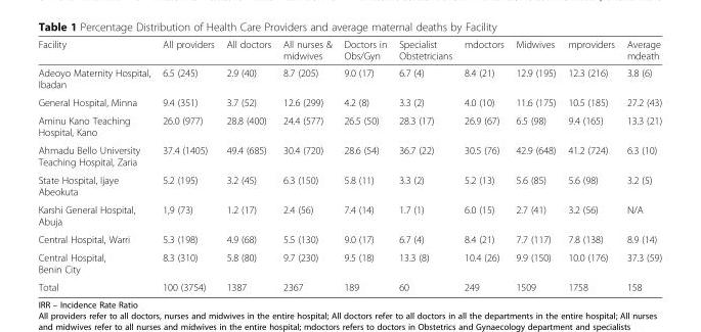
<table><thead><tr><td>Facility</td><td>All providers</td><td>All doctors</td><td>All nurses &amp; midwives</td><td>Doctors in Obs/Gyn</td><td>Specialist Obstetricians</td><td>mdoctors</td><td>Midwives</td><td>mproviders</td><td>Average mdeath</td></tr></thead><tbody><tr><td>Adeoyo Maternity Hospital, Ibadan</td><td>6.5 (245)</td><td>2.9 (40)</td><td>8.7 (205)</td><td>9.0 (17)</td><td>6.7 (4)</td><td>8.4 (21)</td><td>12.9 (195)</td><td>12.3 (216)</td><td>3.8 (6)</td></tr><tr><td>General Hospital, Minna</td><td>9.4 (351)</td><td>3.7 (52)</td><td>12.6 (299)</td><td>4.2 (8)</td><td>3.3 (2)</td><td>4.0 (10)</td><td>11.6 (175)</td><td>10.5 (185)</td><td>27.2 (43)</td></tr><tr><td>Aminu Kano Teaching Hospital, Kano</td><td>26.0 (977)</td><td>28.8 (400)</td><td>24.4 (577)</td><td>26.5 (50)</td><td>28.3 (17)</td><td>26.9 (67)</td><td>6.5 (98)</td><td>9.4 (165)</td><td>13.3 (21)</td></tr><tr><td>Ahmadu Bello University Teaching Hospital, Zaria</td><td>37.4 (1405)</td><td>49.4 (685)</td><td>30.4 (720)</td><td>28.6 (54)</td><td>36.7 (22)</td><td>30.5 (76)</td><td>42.9 (648)</td><td>41.2 (724)</td><td>6.3 (10)</td></tr><tr><td>State Hospital, Ijaye Abeokuta</td><td>5.2 (195)</td><td>3.2 (45)</td><td>6.3 (150)</td><td>5.8 (11)</td><td>3.3 (2)</td><td>5.2 (13)</td><td>5.6 (85)</td><td>5.6 (98)</td><td>3.2 (5)</td></tr><tr><td>Karshi General Hospital, Abuja</td><td>1,9 (73)</td><td>1.2 (17)</td><td>2.4 (56)</td><td>7.4 (14)</td><td>1.7 (1)</td><td>6.0 (15)</td><td>2.7 (41)</td><td>3.2 (56)</td><td>N/A</td></tr><tr><td>Central Hospital, Warri</td><td>5.3 (198)</td><td>4.9 (68)</td><td>5.5 (130)</td><td>9.0 (17)</td><td>6.7 (4)</td><td>8.4 (21)</td><td>7.7 (117)</td><td>7.8 (138)</td><td>8.9 (14)</td></tr><tr><td>Central Hospital, Benin City</td><td>8.3 (310)</td><td>5.8 (80)</td><td>9.7 (230)</td><td>9.5 (18)</td><td>13.3 (8)</td><td>10.4 (26)</td><td>9.9 (150)</td><td>10.0 (176)</td><td>37.3 (59)</td></tr><tr><td>Total</td><td>100 (3754)</td><td>1387</td><td>2367</td><td>189</td><td>60</td><td>249</td><td>1509</td><td>1758</td><td>158</td></tr></tbody></table>